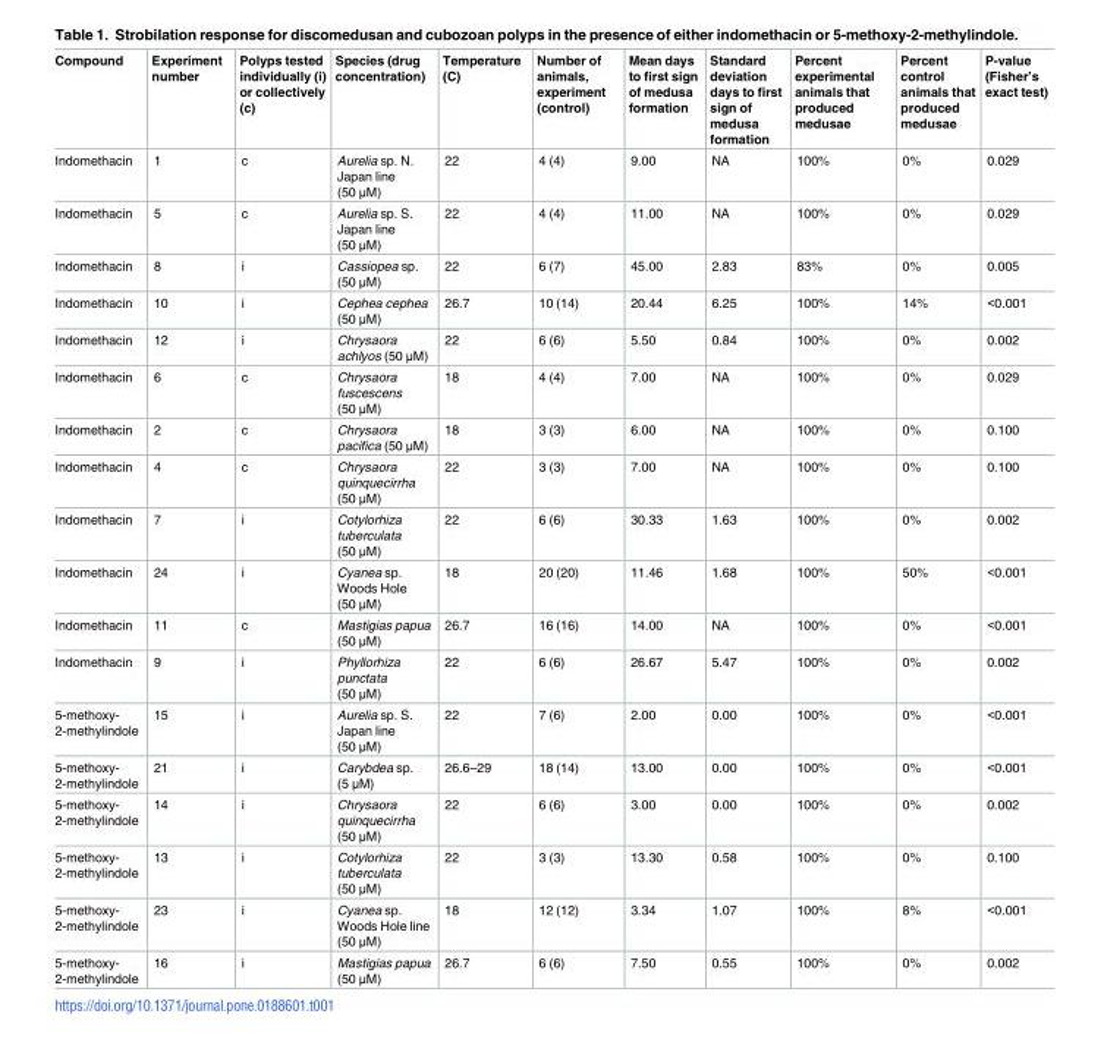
<table><thead><tr><td>Compound</td><td>Experiment number</td><td>Polyps tested individually (i) or collectively (c)</td><td>Species (drug concentration)</td><td>Temperature (C)</td><td>Number of animals, experiment (control)</td><td>Mean days to first sign of medusa formation</td><td>Standard deviation days to first sign of medusa formation</td><td>Percent experimental animals that produced medusae</td><td>Percent control animals that produced medusae</td><td>P-value (Fisher’s exact test)</td></tr></thead><tbody><tr><td>Indomethacin</td><td>1</td><td>c</td><td>Aurelia sp. N. Japan line (50 μM)</td><td>22</td><td>4 (4)</td><td>9.00</td><td>NA</td><td>100%</td><td>0%</td><td>0.029</td></tr><tr><td>Indomethacin</td><td>5</td><td>c</td><td>Aurelia sp. S. Japan line (50 μM)</td><td>22</td><td>4 (4)</td><td>11.00</td><td>NA</td><td>100%</td><td>0%</td><td>0.029</td></tr><tr><td>Indomethacin</td><td>8</td><td>i</td><td>Cassiopea sp. (50 μM)</td><td>22</td><td>6 (7)</td><td>45.00</td><td>2.83</td><td>83%</td><td>0%</td><td>0.005</td></tr><tr><td>Indomethacin</td><td>10</td><td>i</td><td>Cephea cephea (50 μM)</td><td>26.7</td><td>10 (14)</td><td>20.44</td><td>6.25</td><td>100%</td><td>14%</td><td>&lt;0.001</td></tr><tr><td>Indomethacin</td><td>12</td><td>i</td><td>Chrysaora achlyos (50 μM)</td><td>22</td><td>6 (6)</td><td>5.50</td><td>0.84</td><td>100%</td><td>0%</td><td>0.002</td></tr><tr><td>Indomethacin</td><td>6</td><td>c</td><td>Chrysaora fuscescens (50 μM)</td><td>18</td><td>4 (4)</td><td>7.00</td><td>NA</td><td>100%</td><td>0%</td><td>0.029</td></tr><tr><td>Indomethacin</td><td>2</td><td>c</td><td>Chrysaora pacifica (50 μM)</td><td>18</td><td>3 (3)</td><td>6.00</td><td>NA</td><td>100%</td><td>0%</td><td>0.100</td></tr><tr><td>Indomethacin</td><td>4</td><td>c</td><td>Chrysaora quinquecirrha (50 μM)</td><td>22</td><td>3 (3)</td><td>7.00</td><td>NA</td><td>100%</td><td>0%</td><td>0.100</td></tr><tr><td>Indomethacin</td><td>7</td><td>i</td><td>Cotylorhiza tuberculata (50 μM)</td><td>22</td><td>6 (6)</td><td>30.33</td><td>1.63</td><td>100%</td><td>0%</td><td>0.002</td></tr><tr><td>Indomethacin</td><td>24</td><td>i</td><td>Cyanea sp. Woods Hole (50 μM)</td><td>18</td><td>20 (20)</td><td>11.46</td><td>1.68</td><td>100%</td><td>50%</td><td>&lt;0.001</td></tr><tr><td>Indomethacin</td><td>11</td><td>c</td><td>Mastigias papua (50 μM)</td><td>26.7</td><td>16 (16)</td><td>14.00</td><td>NA</td><td>100%</td><td>0%</td><td>&lt;0.001</td></tr><tr><td>Indomethacin</td><td>9</td><td>i</td><td>Phyllorhiza punctata (50 μM)</td><td>22</td><td>6 (6)</td><td>26.67</td><td>5.47</td><td>100%</td><td>0%</td><td>0.002</td></tr><tr><td>5-methoxy- 2-methylindole</td><td>15</td><td>i</td><td>Aurelia sp. S. Japan line (50 μM)</td><td>22</td><td>7 (6)</td><td>2.00</td><td>0.00</td><td>100%</td><td>0%</td><td>&lt;0.001</td></tr><tr><td>5-methoxy- 2-methylindole</td><td>21</td><td>i</td><td>Carybdea sp. (5 μM)</td><td>26.6–29</td><td>18 (14)</td><td>13.00</td><td>0.00</td><td>100%</td><td>0%</td><td>&lt;0.001</td></tr><tr><td>5-methoxy- 2-methylindole</td><td>14</td><td>i</td><td>Chrysaora quinquecirrha (50 μM)</td><td>22</td><td>6 (6)</td><td>3.00</td><td>0.00</td><td>100%</td><td>0%</td><td>0.002</td></tr><tr><td>5-methoxy- 2-methylindole</td><td>13</td><td>i</td><td>Cotylorhiza tuberculata (50 μM)</td><td>22</td><td>3 (3)</td><td>13.30</td><td>0.58</td><td>100%</td><td>0%</td><td>0.100</td></tr><tr><td>5-methoxy- 2-methylindole</td><td>23</td><td>i</td><td>Cyanea sp. Woods Hole line (50 μM)</td><td>18</td><td>12 (12)</td><td>3.34</td><td>1.07</td><td>100%</td><td>8%</td><td>&lt;0.001</td></tr><tr><td>5-methoxy- 2-methylindole</td><td>16</td><td>i</td><td>Mastigias papua (50 μM)</td><td>26.7</td><td>6 (6)</td><td>7.50</td><td>0.55</td><td>100%</td><td>0%</td><td>0.002</td></tr></tbody></table>